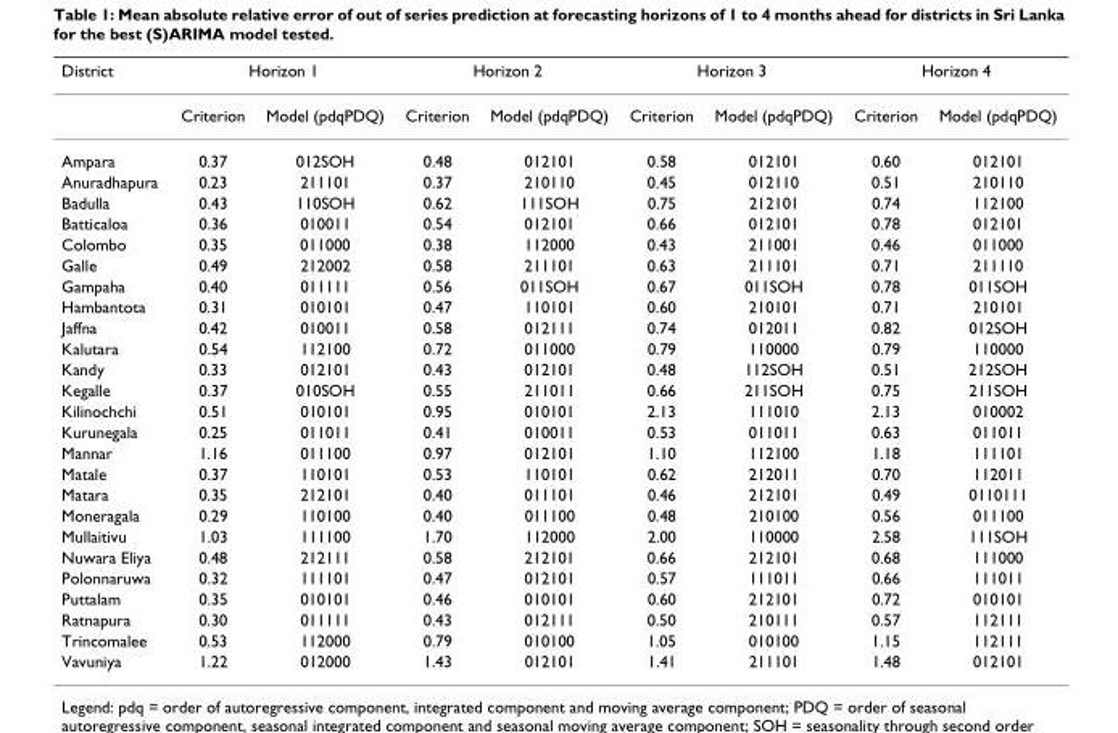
<table><thead><tr><td rowspan="2">District</td><td colspan="2">Horizon 1</td><td colspan="2">Horizon 2</td><td colspan="2">Horizon 3</td><td colspan="2">Horizon 4</td></tr><tr><td>Criterion</td><td>Model (pdqPDQ)</td><td>Criterion</td><td>Model (pdqPDQ)</td><td>Criterion</td><td>Model (pdqPDQ)</td><td>Criterion</td><td>Model (pdqPDQ)</td></tr></thead><tbody><tr><td>Ampara</td><td>0.37</td><td>012SOH</td><td>0.48</td><td>012101</td><td>0.58</td><td>012101</td><td>0.60</td><td>012101</td></tr><tr><td>Anuradhapura</td><td>0.23</td><td>211101</td><td>0.37</td><td>210110</td><td>0.45</td><td>012110</td><td>0.51</td><td>210110</td></tr><tr><td>Badulla</td><td>0.43</td><td>110SOH</td><td>0.62</td><td>111SOH</td><td>0.75</td><td>212101</td><td>0.74</td><td>112100</td></tr><tr><td>Batticaloa</td><td>0.36</td><td>010011</td><td>0.54</td><td>012101</td><td>0.66</td><td>012101</td><td>0.78</td><td>012101</td></tr><tr><td>Colombo</td><td>0.35</td><td>011000</td><td>0.38</td><td>112000</td><td>0.43</td><td>211001</td><td>0.46</td><td>011000</td></tr><tr><td>Galle</td><td>0.49</td><td>212002</td><td>0.58</td><td>211101</td><td>0.63</td><td>211101</td><td>0.71</td><td>211110</td></tr><tr><td>Gampaha</td><td>0.40</td><td>011111</td><td>0.56</td><td>011SOH</td><td>0.67</td><td>011SOH</td><td>0.78</td><td>011SOH</td></tr><tr><td>Hambantota</td><td>0.31</td><td>010101</td><td>0.47</td><td>110101</td><td>0.60</td><td>210101</td><td>0.71</td><td>210101</td></tr><tr><td>Jaffna</td><td>0.42</td><td>010011</td><td>0.58</td><td>012111</td><td>0.74</td><td>012011</td><td>0.82</td><td>012SOH</td></tr><tr><td>Kalutara</td><td>0.54</td><td>112100</td><td>0.72</td><td>011000</td><td>0.79</td><td>110000</td><td>0.79</td><td>110000</td></tr><tr><td>Kandy</td><td>0.33</td><td>012101</td><td>0.43</td><td>012101</td><td>0.48</td><td>112SOH</td><td>0.51</td><td>212SOH</td></tr><tr><td>Kegalle</td><td>0.37</td><td>010SOH</td><td>0.55</td><td>211011</td><td>0.66</td><td>211SOH</td><td>0.75</td><td>211SOH</td></tr><tr><td>Kilinochchi</td><td>0.51</td><td>010101</td><td>0.95</td><td>010101</td><td>2.13</td><td>111010</td><td>2.13</td><td>010002</td></tr><tr><td>Kurunegala</td><td>0.25</td><td>011011</td><td>0.41</td><td>010011</td><td>0.53</td><td>011011</td><td>0.63</td><td>011011</td></tr><tr><td>Mannar</td><td>1.16</td><td>011100</td><td>0.97</td><td>012101</td><td>1.10</td><td>112100</td><td>1.18</td><td>111101</td></tr><tr><td>Matale</td><td>0.37</td><td>110101</td><td>0.53</td><td>110101</td><td>0.62</td><td>212011</td><td>0.70</td><td>112011</td></tr><tr><td>Matara</td><td>0.35</td><td>212101</td><td>0.40</td><td>011101</td><td>0.46</td><td>212101</td><td>0.49</td><td>0110111</td></tr><tr><td>Moneragala</td><td>0.29</td><td>110100</td><td>0.40</td><td>011100</td><td>0.48</td><td>210100</td><td>0.56</td><td>011100</td></tr><tr><td>Mullaitivu</td><td>1.03</td><td>111100</td><td>1.70</td><td>112000</td><td>2.00</td><td>110000</td><td>2.58</td><td>111SOH</td></tr><tr><td>Nuwara Eliya</td><td>0.48</td><td>212111</td><td>0.58</td><td>212101</td><td>0.66</td><td>212101</td><td>0.68</td><td>111000</td></tr><tr><td>Polonnaruwa</td><td>0.32</td><td>111101</td><td>0.47</td><td>012101</td><td>0.57</td><td>111011</td><td>0.66</td><td>111011</td></tr><tr><td>Puttalam</td><td>0.35</td><td>010101</td><td>0.46</td><td>010101</td><td>0.60</td><td>212101</td><td>0.72</td><td>010101</td></tr><tr><td>Ratnapura</td><td>0.30</td><td>011111</td><td>0.43</td><td>012111</td><td>0.50</td><td>210111</td><td>0.57</td><td>112111</td></tr><tr><td>Trincomalee</td><td>0.53</td><td>112000</td><td>0.79</td><td>010100</td><td>1.05</td><td>010100</td><td>1.15</td><td>112111</td></tr><tr><td>Vavuniya</td><td>1.22</td><td>012000</td><td>1.43</td><td>012101</td><td>1.41</td><td>211101</td><td>1.48</td><td>012101</td></tr></tbody></table>